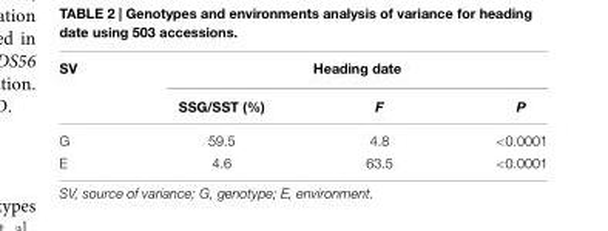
<table><thead><tr><td rowspan="2">SV</td><td colspan="3">Heading date</td></tr><tr><td>SSG/SST (%)</td><td>F</td><td>P</td></tr></thead><tbody><tr><td>G</td><td>59.5</td><td>4.8</td><td>&lt;0.0001</td></tr><tr><td>E</td><td>4.6</td><td>63.5</td><td>&lt;0.0001</td></tr></tbody></table>